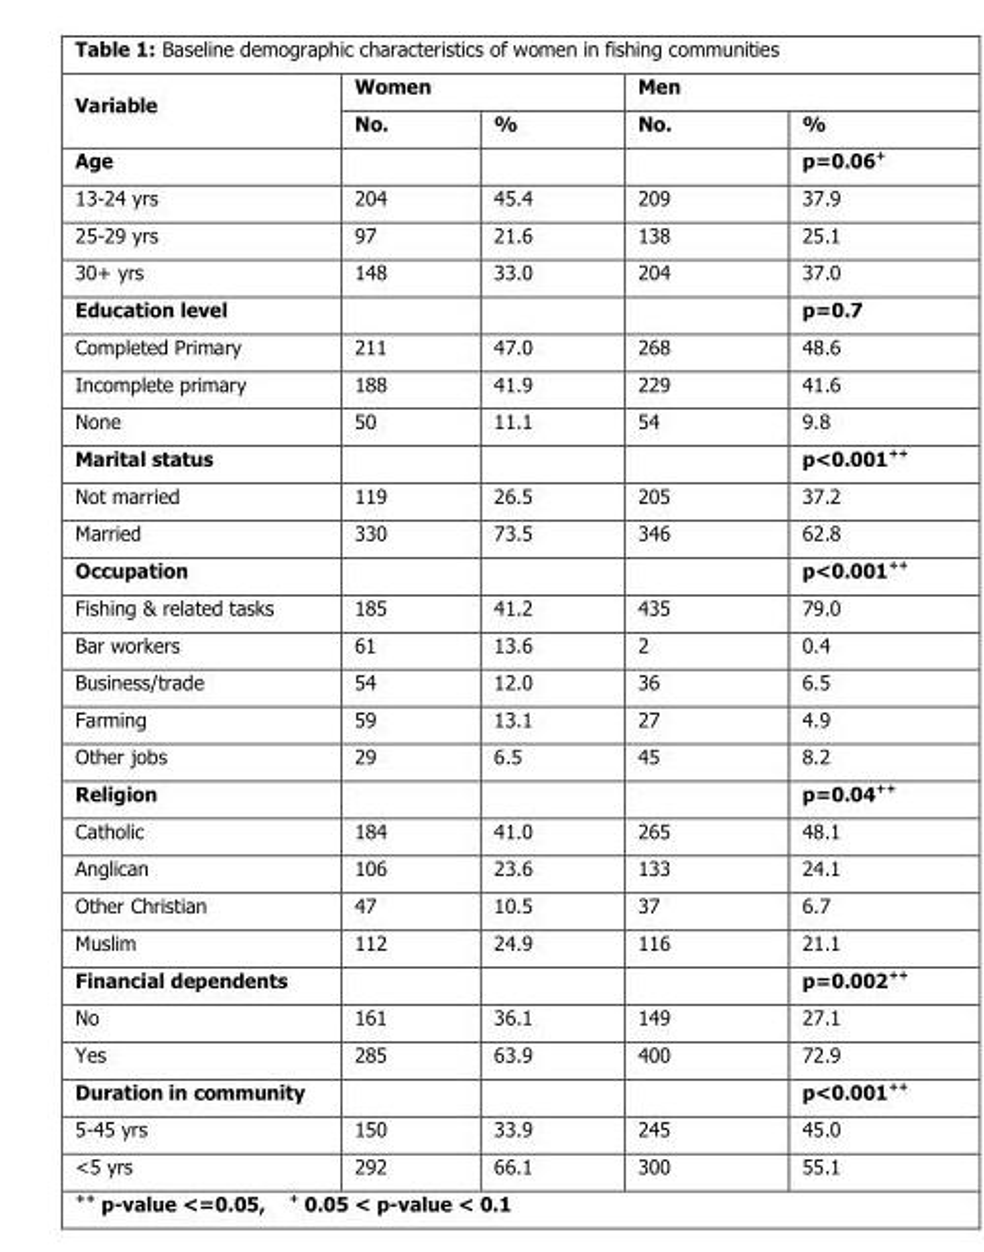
<table><thead><tr><td rowspan="2">Variable</td><td colspan="2">Women</td><td colspan="2">Men</td></tr><tr><td>No.</td><td>%</td><td>No.</td><td>%</td></tr></thead><tbody><tr><td>Age</td><td></td><td></td><td></td><td>p=0.06<sup>+</sup></td></tr><tr><td>13-24 yrs</td><td>204</td><td>45.4</td><td>209</td><td>37.9</td></tr><tr><td>25-29 yrs</td><td>97</td><td>21.6</td><td>138</td><td>25.1</td></tr><tr><td>30+ yrs</td><td>148</td><td>33.0</td><td>204</td><td>37.0</td></tr><tr><td>Education level</td><td></td><td></td><td></td><td>p=0.7</td></tr><tr><td>Completed Primary</td><td>211</td><td>47.0</td><td>268</td><td>48.6</td></tr><tr><td>Incomplete primary</td><td>188</td><td>41.9</td><td>229</td><td>41.6</td></tr><tr><td>None</td><td>50</td><td>11.1</td><td>54</td><td>9.8</td></tr><tr><td>Marital status</td><td></td><td></td><td></td><td>p&lt;0.001<sup>++</sup></td></tr><tr><td>Not married</td><td>119</td><td>26.5</td><td>205</td><td>37.2</td></tr><tr><td>Married</td><td>330</td><td>73.5</td><td>346</td><td>62.8</td></tr><tr><td>Occupation</td><td></td><td></td><td></td><td>p&lt;0.001<sup>++</sup></td></tr><tr><td>Fishing &amp; related tasks</td><td>185</td><td>41.2</td><td>435</td><td>79.0</td></tr><tr><td>Bar workers</td><td>61</td><td>13.6</td><td>2</td><td>0.4</td></tr><tr><td>Business/trade</td><td>54</td><td>12.0</td><td>36</td><td>6.5</td></tr><tr><td>Farming</td><td>59</td><td>13.1</td><td>27</td><td>4.9</td></tr><tr><td>Other jobs</td><td>29</td><td>6.5</td><td>45</td><td>8.2</td></tr><tr><td>Religion</td><td></td><td></td><td></td><td>p=0.04<sup>++</sup></td></tr><tr><td>Catholic</td><td>184</td><td>41.0</td><td>265</td><td>48.1</td></tr><tr><td>Anglican</td><td>106</td><td>23.6</td><td>133</td><td>24.1</td></tr><tr><td>Other Christian</td><td>47</td><td>10.5</td><td>37</td><td>6.7</td></tr><tr><td>Muslim</td><td>112</td><td>24.9</td><td>116</td><td>21.1</td></tr><tr><td>Financial dependents</td><td></td><td></td><td></td><td>p=0.002<sup>++</sup></td></tr><tr><td>No</td><td>161</td><td>36.1</td><td>149</td><td>27.1</td></tr><tr><td>Yes</td><td>285</td><td>63.9</td><td>400</td><td>72.9</td></tr><tr><td>Duration in community</td><td></td><td></td><td></td><td>p&lt;0.001<sup>++</sup></td></tr><tr><td>5-45 yrs</td><td>150</td><td>33.9</td><td>245</td><td>45.0</td></tr><tr><td>&lt;5 yrs</td><td>292</td><td>66.1</td><td>300</td><td>55.1</td></tr></tbody></table>